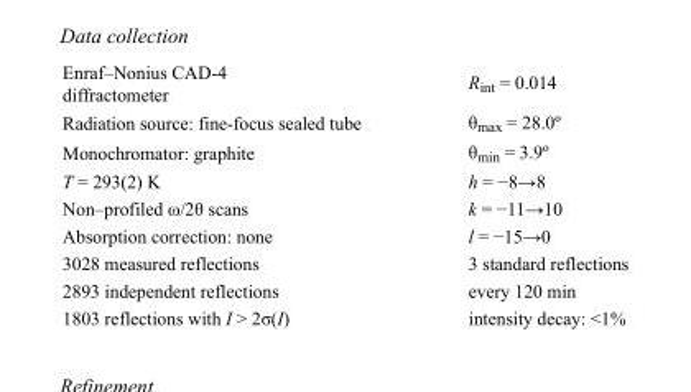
<table><tbody><tr><td>Enraf–Nonius CAD-4 diffractometer</td><td>R<sub>int</sub> = 0.014</td></tr><tr><td>Radiation source: fine-focus sealed tube</td><td>θ<sub>max</sub> = 28.0º</td></tr><tr><td>Monochromator: graphite</td><td>θ<sub>min</sub> = 3.9º</td></tr><tr><td>T = 293(2) K</td><td>h = −8→8</td></tr><tr><td>Non–profiled ω/2θ scans</td><td>k = −11→10</td></tr><tr><td>Absorption correction: none</td><td>l = −15→0</td></tr><tr><td>3028 measured reflections</td><td>3 standard reflections</td></tr><tr><td>2893 independent reflections</td><td>every 120 min</td></tr><tr><td>1803 reflections with I &gt; 2σ(I)</td><td>intensity decay: &lt;1%</td></tr></tbody></table>